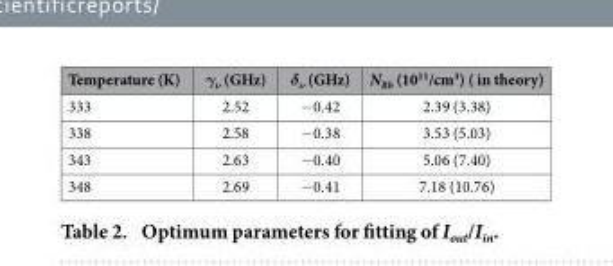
<table><thead><tr><td>Temperature (K)</td><td>γ<sub>ν</sub> (GHz)</td><td>δ<sub>ν</sub> (GHz)</td><td>N<sub>Rb</sub> (10<sup>11</sup>/cm<sup>3</sup>) ( in theory)</td></tr></thead><tbody><tr><td>333</td><td>2.52</td><td>− 0.42</td><td>2.39 (3.38)</td></tr><tr><td>338</td><td>2.58</td><td>− 0.38</td><td>3.53 (5.03)</td></tr><tr><td>343</td><td>2.63</td><td>− 0.40</td><td>5.06 (7.40)</td></tr><tr><td>348</td><td>2.69</td><td>− 0.41</td><td>7.18 (10.76)</td></tr></tbody></table>